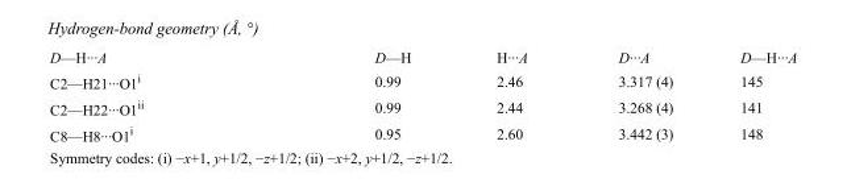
<table><tbody><tr><td>D—H···A</td><td>D—H</td><td>H···A</td><td>D···A</td><td>D—H···A</td></tr><tr><td>C2—H21···O1<sup>i</sup></td><td>0.99</td><td>2.46</td><td>3.317 (4)</td><td>145</td></tr><tr><td>C2—H22···O1<sup>ii</sup></td><td>0.99</td><td>2.44</td><td>3.268 (4)</td><td>141</td></tr><tr><td>C8—H8···O1<sup>i</sup></td><td>0.95</td><td>2.60</td><td>3.442 (3)</td><td>148</td></tr></tbody></table>